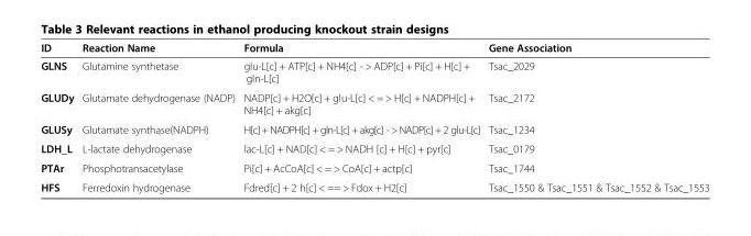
<table><thead><tr><td>ID</td><td>Reaction Name</td><td>Formula</td><td>Gene Association</td></tr></thead><tbody><tr><td>GLNS</td><td>Glutamine synthetase</td><td>glu-L[c] + ATP[c] + NH4[c] - &gt; ADP[c] + Pi[c] + H[c] + gln-L[c]</td><td>Tsac_2029</td></tr><tr><td>GLUDy</td><td>Glutamate dehydrogenase (NADP)</td><td>NADP[c] + H2O[c] + glu-L[c] &lt; = &gt; H[c] + NADPH[c] + NH4[c] + akg[c]</td><td>Tsac_2172</td></tr><tr><td>GLUSy</td><td>Glutamate synthase(NADPH)</td><td>H[c] + NADPH[c] + gln-L[c] + akg[c] - &gt; NADP[c] + 2 glu-L[c]</td><td>Tsac_1234</td></tr><tr><td>LDH_L</td><td>L-lactate dehydrogenase</td><td>lac-L[c] + NAD[c] &lt; = &gt; NADH [c] + H[c] + pyr[c]</td><td>Tsac_0179</td></tr><tr><td>PTAr</td><td>Phosphotransacetylase</td><td>Pi[c] + AcCoA[c] &lt; = &gt; CoA[c] + actp[c]</td><td>Tsac_1744</td></tr><tr><td>HFS</td><td>Ferredoxin hydrogenase</td><td>Fdred[c] + 2 h[c] &lt; == &gt; Fdox + H2[c]</td><td>Tsac_1550 &amp; Tsac_1551 &amp; Tsac_1552 &amp; Tsac_1553</td></tr></tbody></table>